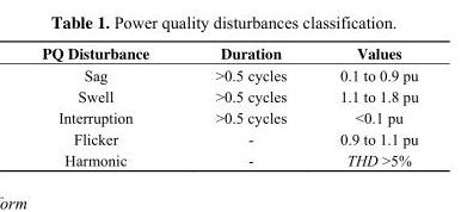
<table><thead><tr><td>PQ Disturbance</td><td>Duration</td><td>Values</td></tr></thead><tbody><tr><td>Sag</td><td>&gt;0.5 cycles</td><td>0.1 to 0.9 pu</td></tr><tr><td>Swell</td><td>&gt;0.5 cycles</td><td>1.1 to 1.8 pu</td></tr><tr><td>Interruption</td><td>&gt;0.5 cycles</td><td>&lt;0.1 pu</td></tr><tr><td>Flicker</td><td>-</td><td>0.9 to 1.1 pu</td></tr><tr><td>Harmonic</td><td>-</td><td>THD &gt;5%</td></tr></tbody></table>